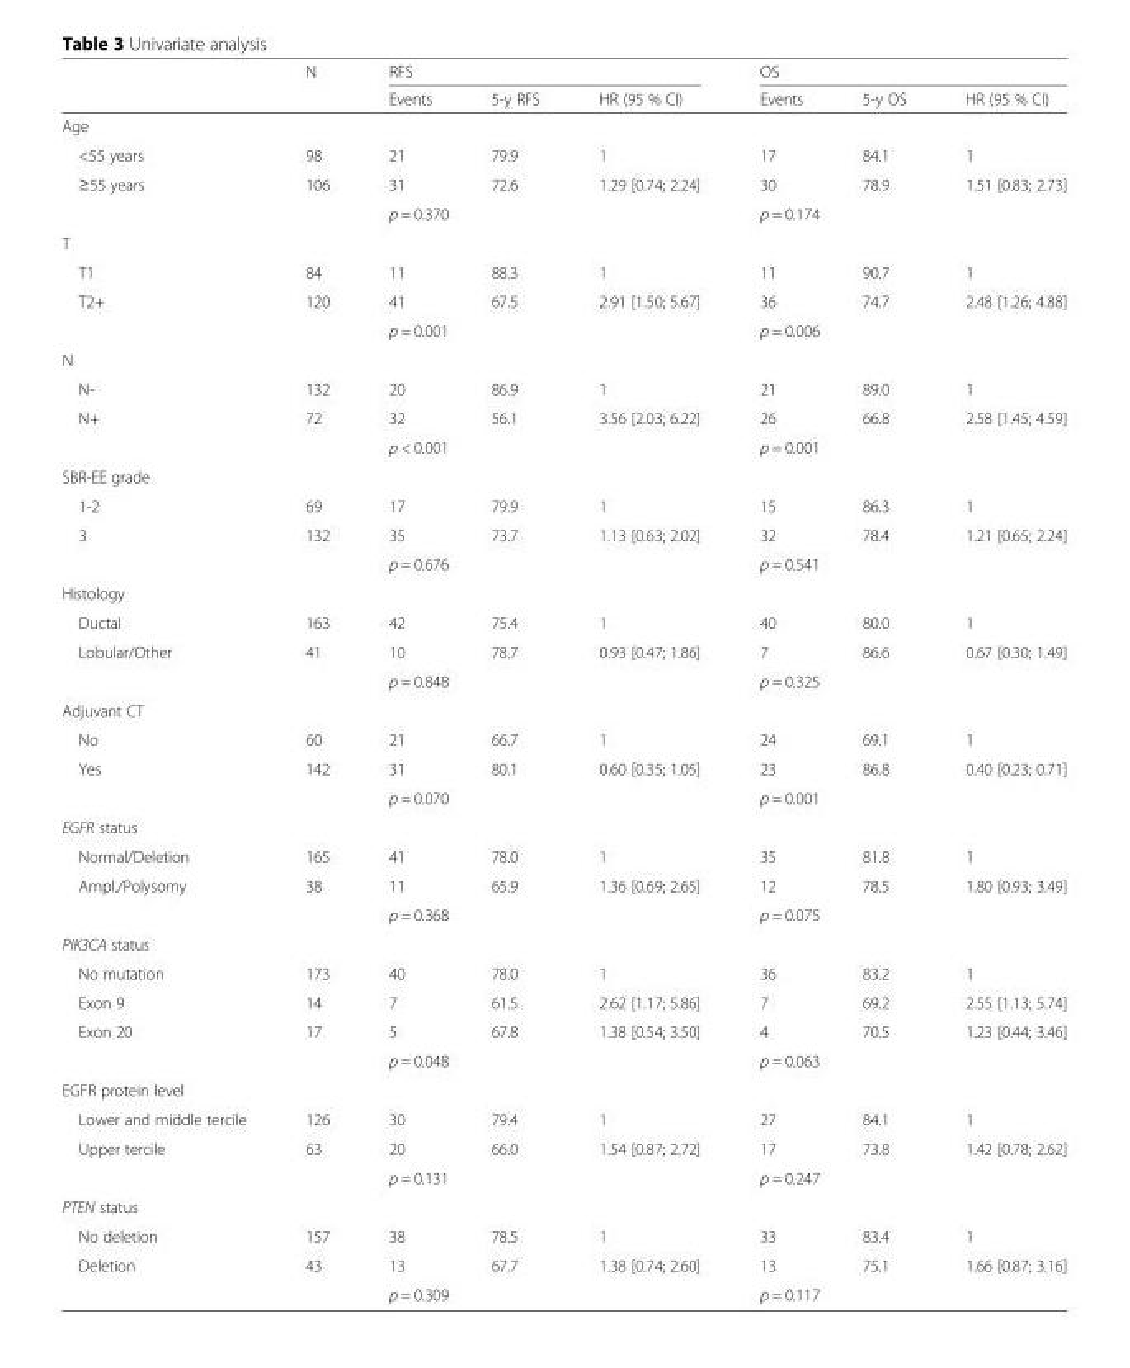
<table><thead><tr><td rowspan="2"></td><td rowspan="2">N</td><td colspan="3">RFS</td><td colspan="3">OS</td></tr><tr><td>Events</td><td>5-y RFS</td><td>HR (95 % CI)</td><td>Events</td><td>5-y OS</td><td>HR (95 % CI)</td></tr></thead><tbody><tr><td colspan="8">Age</td></tr><tr><td>&lt;55 years</td><td>98</td><td>21</td><td>79.9</td><td>1</td><td>17</td><td>84.1</td><td>1</td></tr><tr><td rowspan="2">≥55 years</td><td>106</td><td>31</td><td>72.6</td><td>1.29 [0.74; 2.24]</td><td>30</td><td>78.9</td><td>1.51 [0.83; 2.73]</td></tr><tr><td></td><td colspan="3">p = 0.370</td><td colspan="3">p = 0.174</td></tr><tr><td colspan="8">T</td></tr><tr><td>T1</td><td>84</td><td>11</td><td>88.3</td><td>1</td><td>11</td><td>90.7</td><td>1</td></tr><tr><td rowspan="2">T2+</td><td>120</td><td>41</td><td>67.5</td><td>2.91 [1.50; 5.67]</td><td>36</td><td>74.7</td><td>2.48 [1.26; 4.88]</td></tr><tr><td></td><td colspan="3">p = 0.001</td><td colspan="3">p = 0.006</td></tr><tr><td colspan="8">N</td></tr><tr><td>N-</td><td>132</td><td>20</td><td>86.9</td><td>1</td><td>21</td><td>89.0</td><td>1</td></tr><tr><td rowspan="2">N+</td><td>72</td><td>32</td><td>56.1</td><td>3.56 [2.03; 6.22]</td><td>26</td><td>66.8</td><td>2.58 [1.45; 4.59]</td></tr><tr><td></td><td colspan="3">p &lt; 0.001</td><td colspan="3">p = 0.001</td></tr><tr><td colspan="8">SBR-EE grade</td></tr><tr><td>1-2</td><td>69</td><td>17</td><td>79.9</td><td>1</td><td>15</td><td>86.3</td><td>1</td></tr><tr><td rowspan="2">3</td><td>132</td><td>35</td><td>73.7</td><td>1.13 [0.63; 2.02]</td><td>32</td><td>78.4</td><td>1.21 [0.65; 2.24]</td></tr><tr><td></td><td colspan="3">p = 0.676</td><td colspan="3">p = 0.541</td></tr><tr><td colspan="8">Histology</td></tr><tr><td>Ductal</td><td>163</td><td>42</td><td>75.4</td><td>1</td><td>40</td><td>80.0</td><td>1</td></tr><tr><td rowspan="2">Lobular/Other</td><td>41</td><td>10</td><td>78.7</td><td>0.93 [0.47; 1.86]</td><td>7</td><td>86.6</td><td>0.67 [0.30; 1.49]</td></tr><tr><td></td><td colspan="3">p = 0.848</td><td colspan="3">p = 0.325</td></tr><tr><td colspan="8">Adjuvant CT</td></tr><tr><td>No</td><td>60</td><td>21</td><td>66.7</td><td>1</td><td>24</td><td>69.1</td><td>1</td></tr><tr><td rowspan="2">Yes</td><td>142</td><td>31</td><td>80.1</td><td>0.60 [0.35; 1.05]</td><td>23</td><td>86.8</td><td>0.40 [0.23; 0.71]</td></tr><tr><td></td><td colspan="3">p = 0.070</td><td colspan="3">p = 0.001</td></tr><tr><td colspan="8">EGFR status</td></tr><tr><td>Normal/Deletion</td><td>165</td><td>41</td><td>78.0</td><td>1</td><td>35</td><td>81.8</td><td>1</td></tr><tr><td rowspan="2">Ampl./Polysomy</td><td>38</td><td>11</td><td>65.9</td><td>1.36 [0.69; 2.65]</td><td>12</td><td>78.5</td><td>1.80 [0.93; 3.49]</td></tr><tr><td></td><td colspan="3">p = 0.368</td><td colspan="3">p = 0.075</td></tr><tr><td colspan="8">PIK3CA status</td></tr><tr><td>No mutation</td><td>173</td><td>40</td><td>78.0</td><td>1</td><td>36</td><td>83.2</td><td>1</td></tr><tr><td>Exon 9</td><td>14</td><td>7</td><td>61.5</td><td>2.62 [1.17; 5.86]</td><td>7</td><td>69.2</td><td>2.55 [1.13; 5.74]</td></tr><tr><td rowspan="2">Exon 20</td><td>17</td><td>5</td><td>67.8</td><td>1.38 [0.54; 3.50]</td><td>4</td><td>70.5</td><td>1.23 [0.44; 3.46]</td></tr><tr><td></td><td colspan="3">p = 0.048</td><td colspan="3">p = 0.063</td></tr><tr><td colspan="8">EGFR protein level</td></tr><tr><td>Lower and middle tercile</td><td>126</td><td>30</td><td>79.4</td><td>1</td><td>27</td><td>84.1</td><td>1</td></tr><tr><td rowspan="2">Upper tercile</td><td>63</td><td>20</td><td>66.0</td><td>1.54 [0.87; 2.72]</td><td>17</td><td>73.8</td><td>1.42 [0.78; 2.62]</td></tr><tr><td></td><td colspan="3">p = 0.131</td><td colspan="3">p = 0.247</td></tr><tr><td colspan="8">PTEN status</td></tr><tr><td>No deletion</td><td>157</td><td>38</td><td>78.5</td><td>1</td><td>33</td><td>83.4</td><td>1</td></tr><tr><td rowspan="2">Deletion</td><td>43</td><td>13</td><td>67.7</td><td>1.38 [0.74; 2.60]</td><td>13</td><td>75.1</td><td>1.66 [0.87; 3.16]</td></tr><tr><td></td><td colspan="3">p = 0.309</td><td colspan="3">p = 0.117</td></tr></tbody></table>